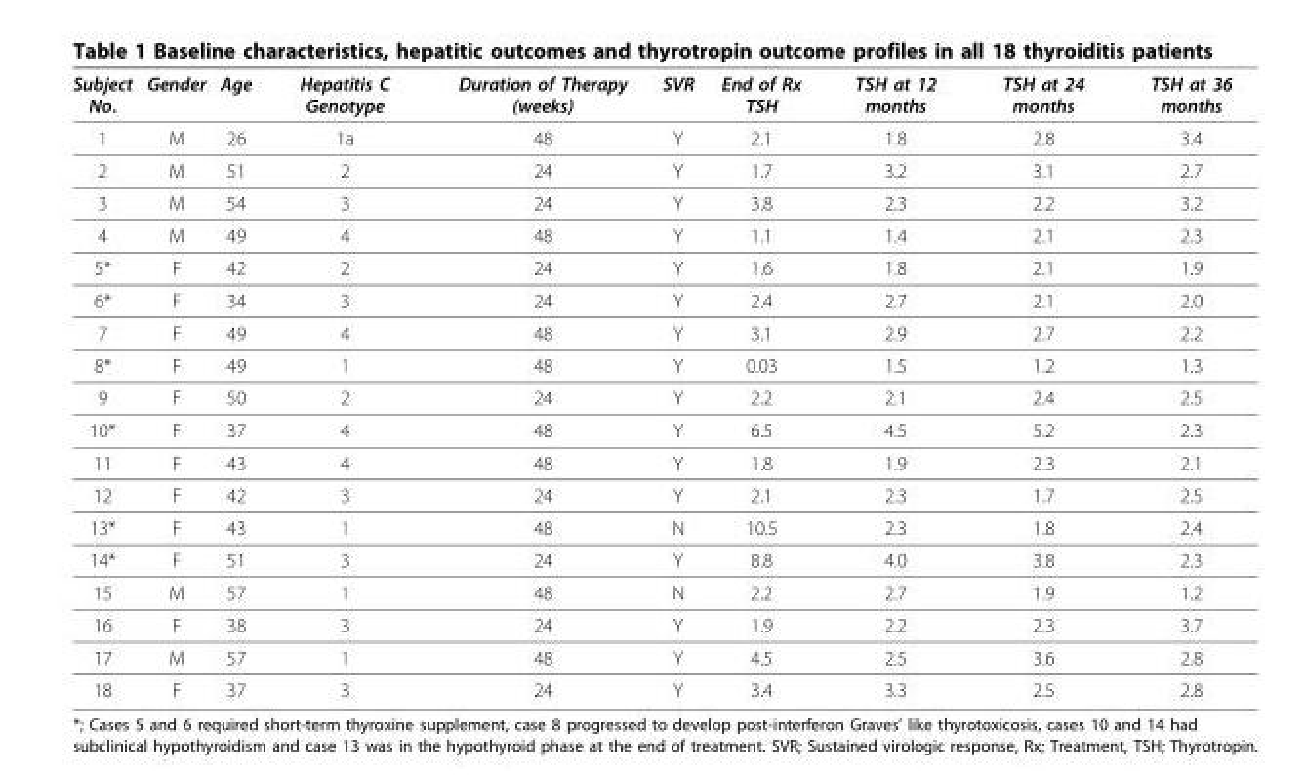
<table><thead><tr><td>Subject No.</td><td>Gender</td><td>Age</td><td>Hepatitis C Genotype</td><td>Duration of Therapy (weeks)</td><td>SVR</td><td>End of Rx TSH</td><td>TSH at 12 months</td><td>TSH at 24 months</td><td>TSH at 36 months</td></tr></thead><tbody><tr><td>1</td><td>M</td><td>26</td><td>1a</td><td>48</td><td>Y</td><td>2.1</td><td>1.8</td><td>2.8</td><td>3.4</td></tr><tr><td>2</td><td>M</td><td>51</td><td>2</td><td>24</td><td>Y</td><td>1.7</td><td>3.2</td><td>3.1</td><td>2.7</td></tr><tr><td>3</td><td>M</td><td>54</td><td>3</td><td>24</td><td>Y</td><td>3.8</td><td>2.3</td><td>2.2</td><td>3.2</td></tr><tr><td>4</td><td>M</td><td>49</td><td>4</td><td>48</td><td>Y</td><td>1.1</td><td>1.4</td><td>2.1</td><td>2.3</td></tr><tr><td>5*</td><td>F</td><td>42</td><td>2</td><td>24</td><td>Y</td><td>1.6</td><td>1.8</td><td>2.1</td><td>1.9</td></tr><tr><td>6*</td><td>F</td><td>34</td><td>3</td><td>24</td><td>Y</td><td>2.4</td><td>2.7</td><td>2.1</td><td>2.0</td></tr><tr><td>7</td><td>F</td><td>49</td><td>4</td><td>48</td><td>Y</td><td>3.1</td><td>2.9</td><td>2.7</td><td>2.2</td></tr><tr><td>8*</td><td>F</td><td>49</td><td>1</td><td>48</td><td>Y</td><td>0.03</td><td>1.5</td><td>1.2</td><td>1.3</td></tr><tr><td>9</td><td>F</td><td>50</td><td>2</td><td>24</td><td>Y</td><td>2.2</td><td>2.1</td><td>2.4</td><td>2.5</td></tr><tr><td>10*</td><td>F</td><td>37</td><td>4</td><td>48</td><td>Y</td><td>6.5</td><td>4.5</td><td>5.2</td><td>2.3</td></tr><tr><td>11</td><td>F</td><td>43</td><td>4</td><td>48</td><td>Y</td><td>1.8</td><td>1.9</td><td>2.3</td><td>2.1</td></tr><tr><td>12</td><td>F</td><td>42</td><td>3</td><td>24</td><td>Y</td><td>2.1</td><td>2.3</td><td>1.7</td><td>2.5</td></tr><tr><td>13*</td><td>F</td><td>43</td><td>1</td><td>48</td><td>N</td><td>10.5</td><td>2.3</td><td>1.8</td><td>2.4</td></tr><tr><td>14*</td><td>F</td><td>51</td><td>3</td><td>24</td><td>Y</td><td>8.8</td><td>4.0</td><td>3.8</td><td>2.3</td></tr><tr><td>15</td><td>M</td><td>57</td><td>1</td><td>48</td><td>N</td><td>2.2</td><td>2.7</td><td>1.9</td><td>1.2</td></tr><tr><td>16</td><td>F</td><td>38</td><td>3</td><td>24</td><td>Y</td><td>1.9</td><td>2.2</td><td>2.3</td><td>3.7</td></tr><tr><td>17</td><td>M</td><td>57</td><td>1</td><td>48</td><td>Y</td><td>4.5</td><td>2.5</td><td>3.6</td><td>2.8</td></tr><tr><td>18</td><td>F</td><td>37</td><td>3</td><td>24</td><td>Y</td><td>3.4</td><td>3.3</td><td>2.5</td><td>2.8</td></tr></tbody></table>